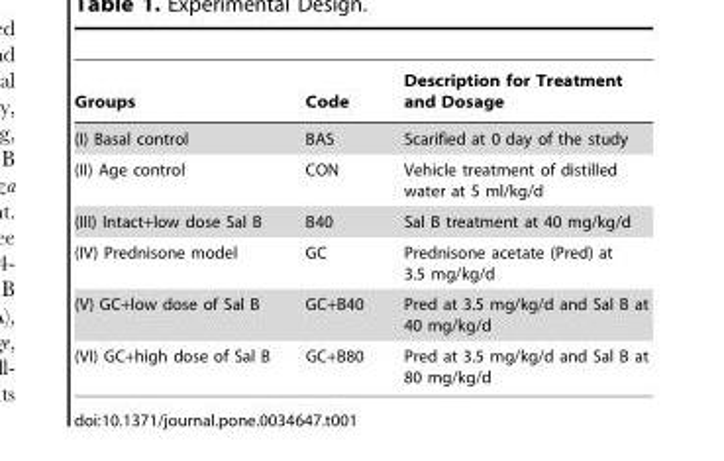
<table><thead><tr><td>Groups</td><td>Code</td><td>Description for Treatment and Dosage</td></tr></thead><tbody><tr><td>(I) Basal control</td><td>BAS</td><td>Scarified at 0 day of the study</td></tr><tr><td>(II) Age control</td><td>CON</td><td>Vehicle treatment of distilled water at 5 ml/kg/d</td></tr><tr><td>(III) Intact+low dose Sal B</td><td>B40</td><td>Sal B treatment at 40 mg/kg/d</td></tr><tr><td>(IV) Prednisone model</td><td>GC</td><td>Prednisone acetate (Pred) at 3.5 mg/kg/d</td></tr><tr><td>(V) GC+low dose of Sal B</td><td>GC+B40</td><td>Pred at 3.5 mg/kg/d and Sal B at 40 mg/kg/d</td></tr><tr><td>(VI) GC+high dose of Sal B</td><td>GC+B80</td><td>Pred at 3.5 mg/kg/d and Sal B at 80 mg/kg/d</td></tr></tbody></table>